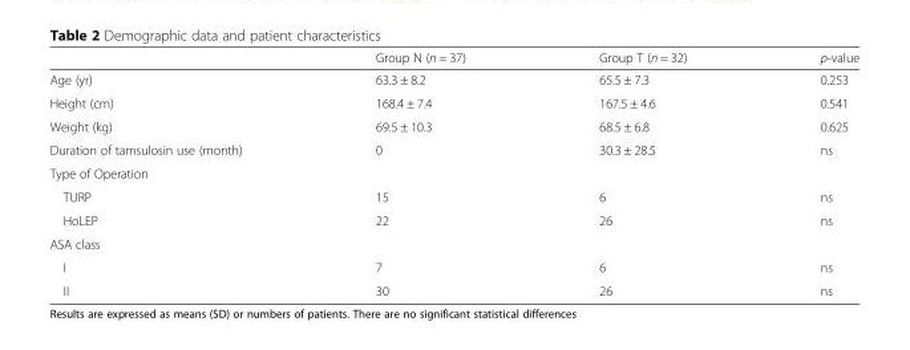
<table><thead><tr><td></td><td>Group N (n = 37)</td><td>Group T (n = 32)</td><td>p-value</td></tr></thead><tbody><tr><td>Age (yr)</td><td>63.3 ± 8.2</td><td>65.5 ± 7.3</td><td>0.253</td></tr><tr><td>Height (cm)</td><td>168.4 ± 7.4</td><td>167.5 ± 4.6</td><td>0.541</td></tr><tr><td>Weight (kg)</td><td>69.5 ± 10.3</td><td>68.5 ± 6.8</td><td>0.625</td></tr><tr><td>Duration of tamsulosin use (month)</td><td>0</td><td>30.3 ± 28.5</td><td>ns</td></tr><tr><td colspan="4">Type of Operation</td></tr><tr><td>TURP</td><td>15</td><td>6</td><td>ns</td></tr><tr><td>HoLEP</td><td>22</td><td>26</td><td>ns</td></tr><tr><td colspan="4">ASA class</td></tr><tr><td>I</td><td>7</td><td>6</td><td>ns</td></tr><tr><td>II</td><td>30</td><td>26</td><td>ns</td></tr></tbody></table>